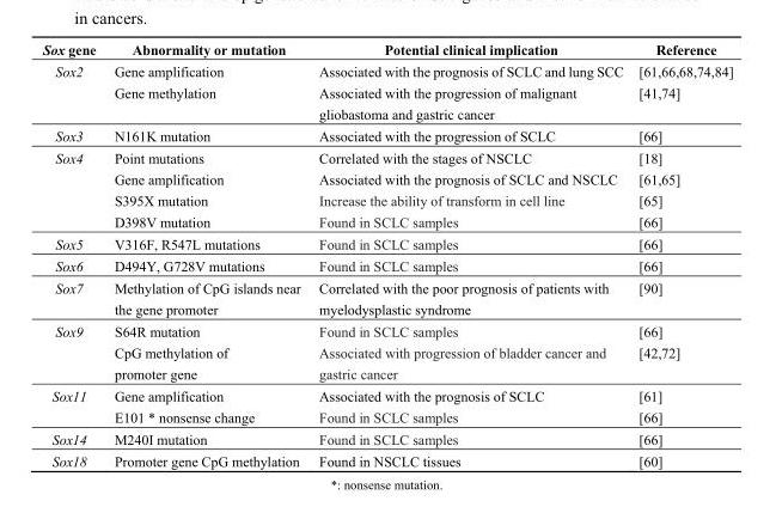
<table><thead><tr><td>Sox gene</td><td>Abnormality or mutation</td><td>Potential clinical implication</td><td>Reference</td></tr></thead><tbody><tr><td rowspan="2">Sox2</td><td>Gene amplification</td><td>Associated with the prognosis of SCLC and lung SCC</td><td>[61,66,68,74,84]</td></tr><tr><td>Gene methylation</td><td>Associated with the progression of malignant gliobastoma and gastric cancer</td><td>[41,74]</td></tr><tr><td>Sox3</td><td>N161K mutation</td><td>Associated with the progression of SCLC</td><td>[66]</td></tr><tr><td rowspan="4">Sox4</td><td>Point mutations</td><td>Correlated with the stages of NSCLC</td><td>[18]</td></tr><tr><td>Gene amplification</td><td>Associated with the prognosis of SCLC and NSCLC</td><td>[61,65]</td></tr><tr><td>S395X mutation</td><td>Increase the ability of transform in cell line</td><td>[65]</td></tr><tr><td>D398V mutation</td><td>Found in SCLC samples</td><td>[66]</td></tr><tr><td>Sox5</td><td>V316F, R547L mutations</td><td>Found in SCLC samples</td><td>[66]</td></tr><tr><td>Sox6</td><td>D494Y, G728V mutations</td><td>Found in SCLC samples</td><td>[66]</td></tr><tr><td>Sox7</td><td>Methylation of CpG islands near the gene promoter</td><td>Correlated with the poor prognosis of patients with myelodysplastic syndrome</td><td>[90]</td></tr><tr><td rowspan="2">Sox9</td><td>S64R mutation</td><td>Found in SCLC samples</td><td>[66]</td></tr><tr><td>CpG methylation of promoter gene</td><td>Associated with progression of bladder cancer and gastric cancer</td><td>[42,72]</td></tr><tr><td rowspan="2">Sox11</td><td>Gene amplification</td><td>Associated with the prognosis of SCLC</td><td>[61]</td></tr><tr><td>E101 * nonsense change</td><td>Found in SCLC samples</td><td>[66]</td></tr><tr><td>Sox14</td><td>M240I mutation</td><td>Found in SCLC samples</td><td>[66]</td></tr><tr><td>Sox18</td><td>Promoter gene CpG methylation</td><td>Found in NSCLC tissues</td><td>[60]</td></tr></tbody></table>